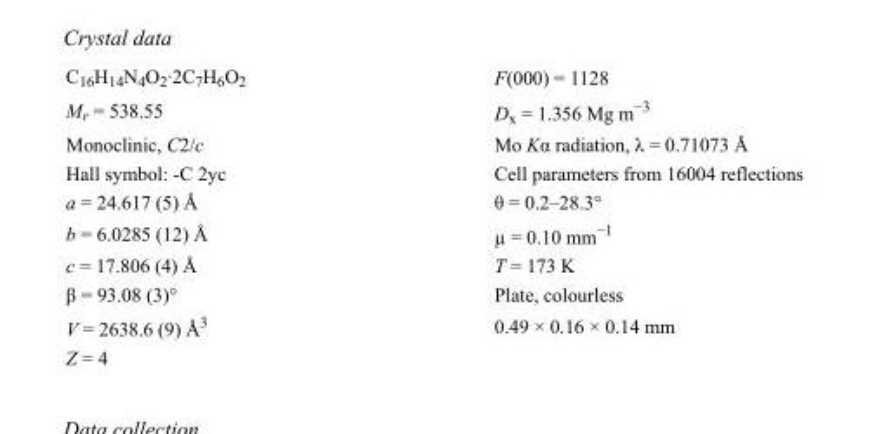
<table><tbody><tr><td>C<sub>16</sub>H<sub>14</sub>N<sub>4</sub>O<sub>2</sub>·2C<sub>7</sub>H<sub>6</sub>O<sub>2</sub></td><td>F(000) = 1128</td></tr><tr><td>M<sub>r</sub> = 538.55</td><td>D<sub>x</sub> = 1.356 Mg m<sup>−3</sup></td></tr><tr><td>Monoclinic, C2/c</td><td>Mo Kα radiation, λ = 0.71073 Å</td></tr><tr><td>Hall symbol: -C 2yc</td><td>Cell parameters from 16004 reflections</td></tr><tr><td>a = 24.617 (5) Å</td><td>θ = 0.2–28.3°</td></tr><tr><td>b = 6.0285 (12) Å</td><td>µ = 0.10 mm<sup>−1</sup></td></tr><tr><td>c = 17.806 (4) Å</td><td>T = 173 K</td></tr><tr><td>β = 93.08 (3)°</td><td>Plate, colourless</td></tr><tr><td>V = 2638.6 (9) Å<sup>3</sup></td><td>0.49 × 0.16 × 0.14 mm</td></tr><tr><td>Z = 4</td><td></td></tr></tbody></table>